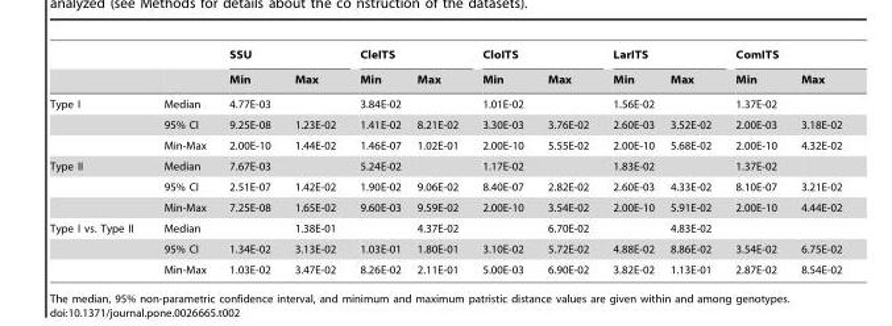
<table><thead><tr><td rowspan="2"></td><td rowspan="2"></td><td colspan="2">SSU</td><td colspan="2">CleITS</td><td colspan="2">CloITS</td><td colspan="2">LarITS</td><td colspan="2">ComITS</td></tr><tr><td>Min</td><td>Max</td><td>Min</td><td>Max</td><td>Min</td><td>Max</td><td>Min</td><td>Max</td><td>Min</td><td>Max</td></tr></thead><tbody><tr><td rowspan="3">Type I</td><td>Median</td><td>4.77E-03</td><td></td><td>3.84E-02</td><td></td><td>1.01E-02</td><td></td><td>1.56E-02</td><td></td><td>1.37E-02</td><td></td></tr><tr><td>95% CI</td><td>9.25E-08</td><td>1.23E-02</td><td>1.41E-02</td><td>8.21E-02</td><td>3.30E-03</td><td>3.76E-02</td><td>2.60E-03</td><td>3.52E-02</td><td>2.00E-03</td><td>3.18E-02</td></tr><tr><td>Min-Max</td><td>2.00E-10</td><td>1.44E-02</td><td>1.46E-07</td><td>1.02E-01</td><td>2.00E-10</td><td>5.55E-02</td><td>2.00E-10</td><td>5.68E-02</td><td>2.00E-10</td><td>4.32E-02</td></tr><tr><td rowspan="3">Type II</td><td>Median</td><td>7.67E-03</td><td></td><td>5.24E-02</td><td></td><td>1.17E-02</td><td></td><td>1.83E-02</td><td></td><td>1.37E-02</td><td></td></tr><tr><td>95% CI</td><td>2.51E-07</td><td>1.42E-02</td><td>1.90E-02</td><td>9.06E-02</td><td>8.40E-07</td><td>2.82E-02</td><td>2.60E-03</td><td>4.33E-02</td><td>8.10E-07</td><td>3.21E-02</td></tr><tr><td>Min-Max</td><td>7.25E-08</td><td>1.65E-02</td><td>9.60E-03</td><td>9.59E-02</td><td>2.00E-10</td><td>3.54E-02</td><td>2.00E-10</td><td>5.91E-02</td><td>2.00E-10</td><td>4.44E-02</td></tr><tr><td rowspan="3">Type I vs. Type II</td><td>Median</td><td></td><td>1.38E-01</td><td></td><td>4.37E-02</td><td></td><td>6.70E-02</td><td></td><td>4.83E-02</td><td></td><td></td></tr><tr><td>95% CI</td><td>1.34E-02</td><td>3.13E-02</td><td>1.03E-01</td><td>1.80E-01</td><td>3.10E-02</td><td>5.72E-02</td><td>4.88E-02</td><td>8.86E-02</td><td>3.54E-02</td><td>6.75E-02</td></tr><tr><td>Min-Max</td><td>1.03E-02</td><td>3.47E-02</td><td>8.26E-02</td><td>2.11E-01</td><td>5.00E-03</td><td>6.90E-02</td><td>3.82E-02</td><td>1.13E-01</td><td>2.87E-02</td><td>8.54E-02</td></tr></tbody></table>